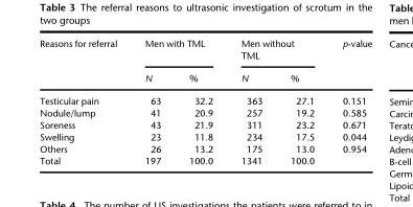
<table><thead><tr><td rowspan="2">Reasons for referral</td><td colspan="2">Men with TML</td><td colspan="2">Men without TML</td><td rowspan="2">p-value</td></tr><tr><td>N</td><td>%</td><td>N</td><td>%</td></tr></thead><tbody><tr><td>Testicular pain</td><td>63</td><td>32.2</td><td>363</td><td>27.1</td><td>0.151</td></tr><tr><td>Nodule/lump</td><td>41</td><td>20.9</td><td>257</td><td>19.2</td><td>0.585</td></tr><tr><td>Soreness</td><td>43</td><td>21.9</td><td>311</td><td>23.2</td><td>0.671</td></tr><tr><td>Swelling</td><td>23</td><td>11.8</td><td>234</td><td>17.5</td><td>0.044</td></tr><tr><td>Others</td><td>26</td><td>13.2</td><td>175</td><td>13.0</td><td>0.954</td></tr><tr><td>Total</td><td>197</td><td>100.0</td><td>1341</td><td>100.0</td><td></td></tr></tbody></table>